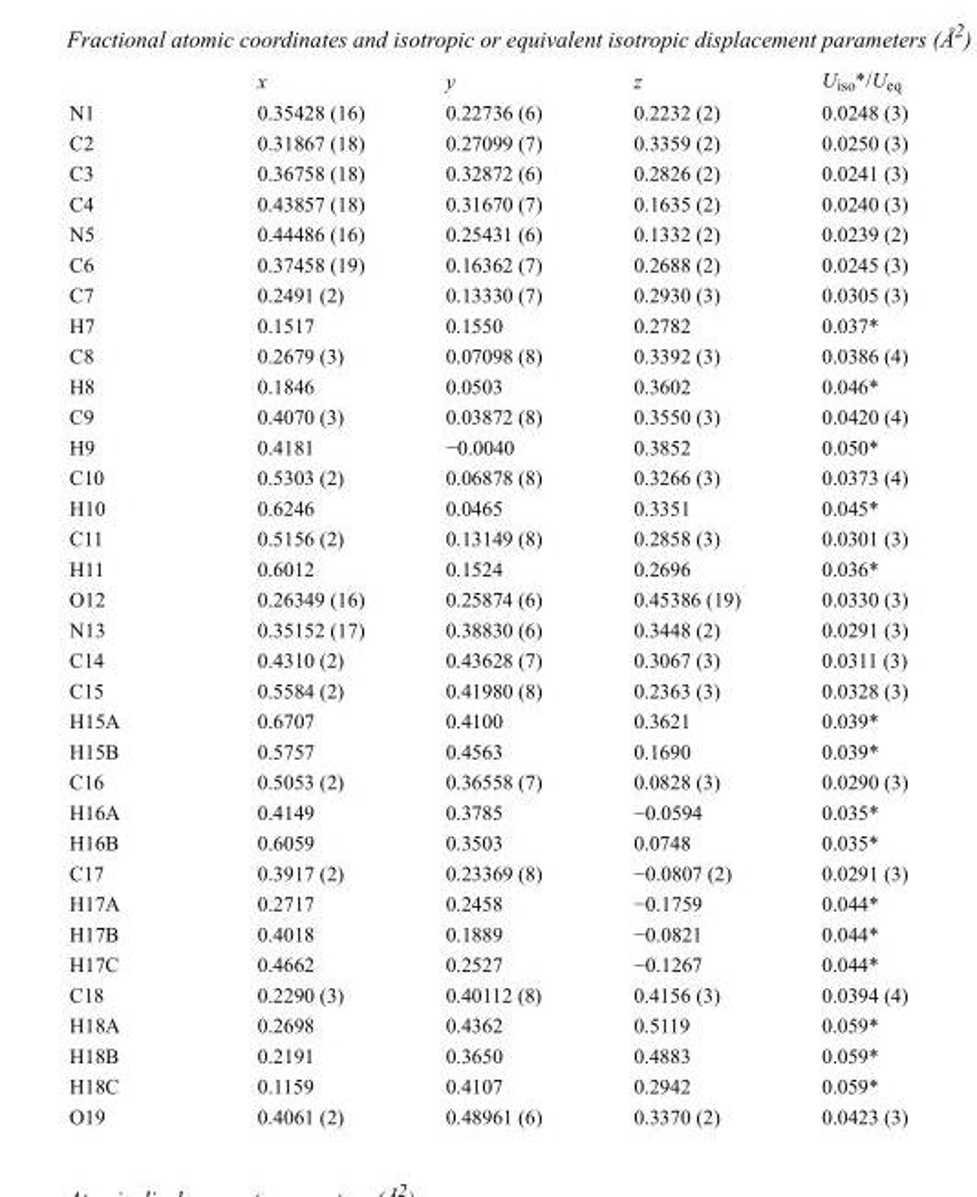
<table><thead><tr><td></td><td>x</td><td>y</td><td>z</td><td>U<sub>iso</sub>*/U<sub>eq</sub></td></tr></thead><tbody><tr><td>N1</td><td>0.35428 (16)</td><td>0.22736 (6)</td><td>0.2232 (2)</td><td>0.0248 (3)</td></tr><tr><td>C2</td><td>0.31867 (18)</td><td>0.27099 (7)</td><td>0.3359 (2)</td><td>0.0250 (3)</td></tr><tr><td>C3</td><td>0.36758 (18)</td><td>0.32872 (6)</td><td>0.2826 (2)</td><td>0.0241 (3)</td></tr><tr><td>C4</td><td>0.43857 (18)</td><td>0.31670 (7)</td><td>0.1635 (2)</td><td>0.0240 (3)</td></tr><tr><td>N5</td><td>0.44486 (16)</td><td>0.25431 (6)</td><td>0.1332 (2)</td><td>0.0239 (2)</td></tr><tr><td>C6</td><td>0.37458 (19)</td><td>0.16362 (7)</td><td>0.2688 (2)</td><td>0.0245 (3)</td></tr><tr><td>C7</td><td>0.2491 (2)</td><td>0.13330 (7)</td><td>0.2930 (3)</td><td>0.0305 (3)</td></tr><tr><td>H7</td><td>0.1517</td><td>0.1550</td><td>0.2782</td><td>0.037*</td></tr><tr><td>C8</td><td>0.2679 (3)</td><td>0.07098 (8)</td><td>0.3392 (3)</td><td>0.0386 (4)</td></tr><tr><td>H8</td><td>0.1846</td><td>0.0503</td><td>0.3602</td><td>0.046*</td></tr><tr><td>C9</td><td>0.4070 (3)</td><td>0.03872 (8)</td><td>0.3550 (3)</td><td>0.0420 (4)</td></tr><tr><td>H9</td><td>0.4181</td><td>−0.0040</td><td>0.3852</td><td>0.050*</td></tr><tr><td>C10</td><td>0.5303 (2)</td><td>0.06878 (8)</td><td>0.3266 (3)</td><td>0.0373 (4)</td></tr><tr><td>H10</td><td>0.6246</td><td>0.0465</td><td>0.3351</td><td>0.045*</td></tr><tr><td>C11</td><td>0.5156 (2)</td><td>0.13149 (8)</td><td>0.2858 (3)</td><td>0.0301 (3)</td></tr><tr><td>H11</td><td>0.6012</td><td>0.1524</td><td>0.2696</td><td>0.036*</td></tr><tr><td>O12</td><td>0.26349 (16)</td><td>0.25874 (6)</td><td>0.45386 (19)</td><td>0.0330 (3)</td></tr><tr><td>N13</td><td>0.35152 (17)</td><td>0.38830 (6)</td><td>0.3448 (2)</td><td>0.0291 (3)</td></tr><tr><td>C14</td><td>0.4310 (2)</td><td>0.43628 (7)</td><td>0.3067 (3)</td><td>0.0311 (3)</td></tr><tr><td>C15</td><td>0.5584 (2)</td><td>0.41980 (8)</td><td>0.2363 (3)</td><td>0.0328 (3)</td></tr><tr><td>H15A</td><td>0.6707</td><td>0.4100</td><td>0.3621</td><td>0.039*</td></tr><tr><td>H15B</td><td>0.5757</td><td>0.4563</td><td>0.1690</td><td>0.039*</td></tr><tr><td>C16</td><td>0.5053 (2)</td><td>0.36558 (7)</td><td>0.0828 (3)</td><td>0.0290 (3)</td></tr><tr><td>H16A</td><td>0.4149</td><td>0.3785</td><td>−0.0594</td><td>0.035*</td></tr><tr><td>H16B</td><td>0.6059</td><td>0.3503</td><td>0.0748</td><td>0.035*</td></tr><tr><td>C17</td><td>0.3917 (2)</td><td>0.23369 (8)</td><td>−0.0807 (2)</td><td>0.0291 (3)</td></tr><tr><td>H17A</td><td>0.2717</td><td>0.2458</td><td>−0.1759</td><td>0.044*</td></tr><tr><td>H17B</td><td>0.4018</td><td>0.1889</td><td>−0.0821</td><td>0.044*</td></tr><tr><td>H17C</td><td>0.4662</td><td>0.2527</td><td>−0.1267</td><td>0.044*</td></tr><tr><td>C18</td><td>0.2290 (3)</td><td>0.40112 (8)</td><td>0.4156 (3)</td><td>0.0394 (4)</td></tr><tr><td>H18A</td><td>0.2698</td><td>0.4362</td><td>0.5119</td><td>0.059*</td></tr><tr><td>H18B</td><td>0.2191</td><td>0.3650</td><td>0.4883</td><td>0.059*</td></tr><tr><td>H18C</td><td>0.1159</td><td>0.4107</td><td>0.2942</td><td>0.059*</td></tr><tr><td>O19</td><td>0.4061 (2)</td><td>0.48961 (6)</td><td>0.3370 (2)</td><td>0.0423 (3)</td></tr></tbody></table>